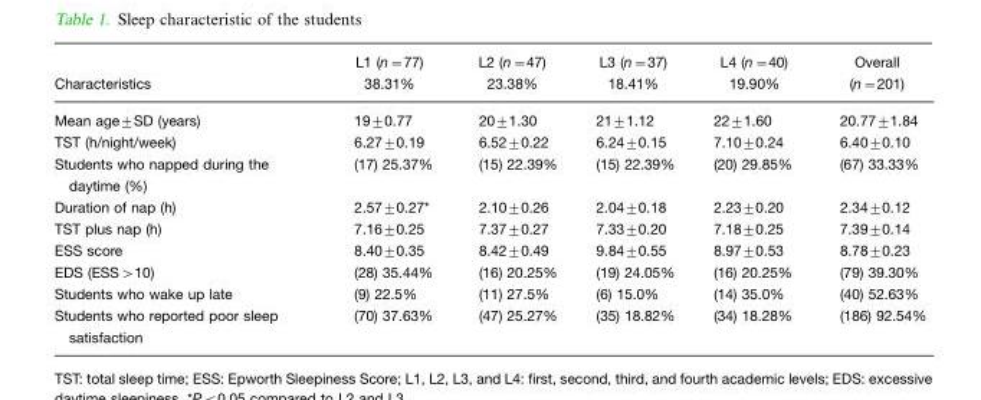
<table><thead><tr><td>Characteristics</td><td>L1 (n=77) 38.31%</td><td>L2 (n=47) 23.38%</td><td>L3 (n=37) 18.41%</td><td>L4 (n=40) 19.90%</td><td>Overall (n=201)</td></tr></thead><tbody><tr><td>Mean age±SD (years)</td><td>19±0.77</td><td>20±1.30</td><td>21±1.12</td><td>22±1.60</td><td>20.77±1.84</td></tr><tr><td>TST (h/night/week)</td><td>6.27±0.19</td><td>6.52±0.22</td><td>6.24±0.15</td><td>7.10±0.24</td><td>6.40±0.10</td></tr><tr><td>Students who napped during the daytime (%)</td><td>(17) 25.37%</td><td>(15) 22.39%</td><td>(15) 22.39%</td><td>(20) 29.85%</td><td>(67) 33.33%</td></tr><tr><td>Duration of nap (h)</td><td>2.57±0.27*</td><td>2.10±0.26</td><td>2.04±0.18</td><td>2.23±0.20</td><td>2.34±0.12</td></tr><tr><td>TST plus nap (h)</td><td>7.16±0.25</td><td>7.37±0.27</td><td>7.33±0.20</td><td>7.18±0.25</td><td>7.39±0.14</td></tr><tr><td>ESS score</td><td>8.40±0.35</td><td>8.42±0.49</td><td>9.84±0.55</td><td>8.97±0.53</td><td>8.78±0.23</td></tr><tr><td>EDS (ESS&gt;10)</td><td>(28) 35.44%</td><td>(16) 20.25%</td><td>(19) 24.05%</td><td>(16) 20.25%</td><td>(79) 39.30%</td></tr><tr><td>Students who wake up late</td><td>(9) 22.5%</td><td>(11) 27.5%</td><td>(6) 15.0%</td><td>(14) 35.0%</td><td>(40) 52.63%</td></tr><tr><td>Students who reported poor sleep satisfaction</td><td>(70) 37.63%</td><td>(47) 25.27%</td><td>(35) 18.82%</td><td>(34) 18.28%</td><td>(186) 92.54%</td></tr></tbody></table>